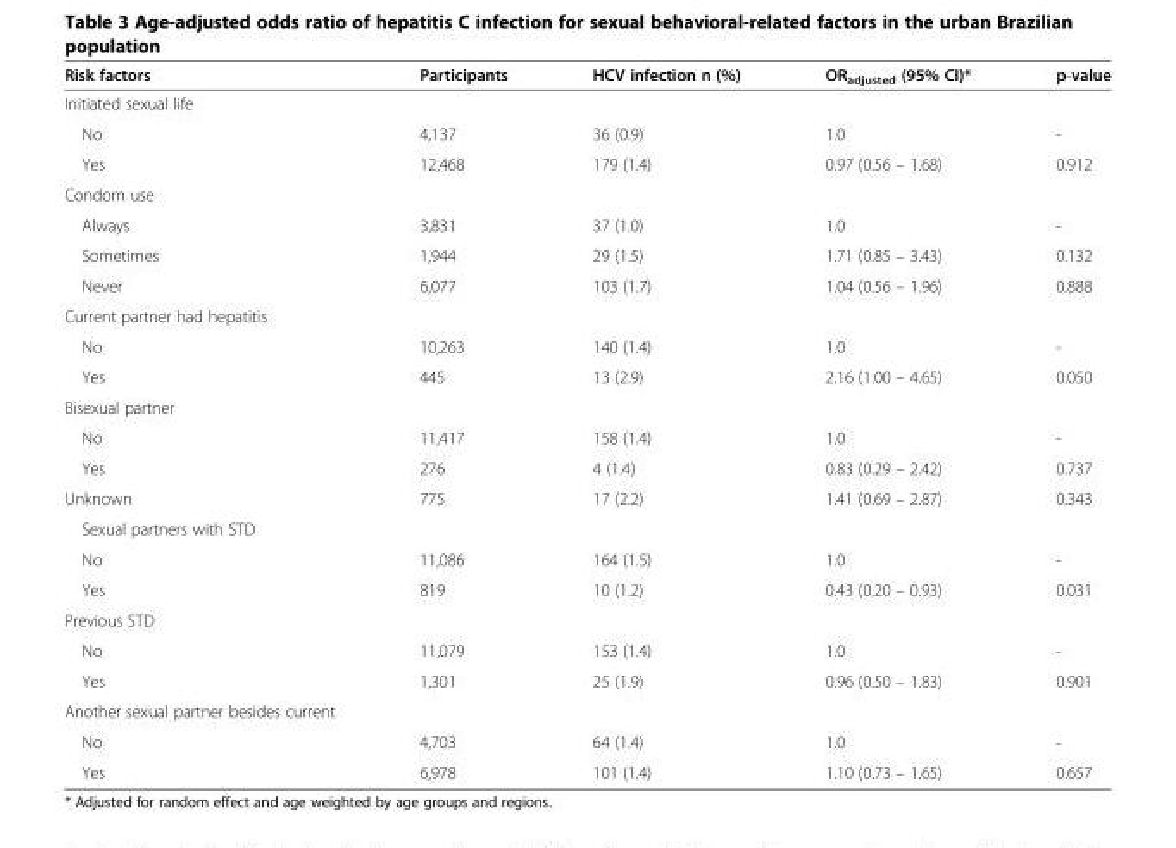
<table><thead><tr><td>Risk factors</td><td>Participants</td><td>HCV infection n (%)</td><td>OR<sub>adjusted</sub> (95% CI)*</td><td>p-value</td></tr></thead><tbody><tr><td colspan="5">Initiated sexual life</td></tr><tr><td>No</td><td>4,137</td><td>36 (0.9)</td><td>1.0</td><td>-</td></tr><tr><td>Yes</td><td>12,468</td><td>179 (1.4)</td><td>0.97 (0.56 – 1.68)</td><td>0.912</td></tr><tr><td colspan="5">Condom use</td></tr><tr><td>Always</td><td>3,831</td><td>37 (1.0)</td><td>1.0</td><td>-</td></tr><tr><td>Sometimes</td><td>1,944</td><td>29 (1.5)</td><td>1.71 (0.85 – 3.43)</td><td>0.132</td></tr><tr><td>Never</td><td>6,077</td><td>103 (1.7)</td><td>1.04 (0.56 – 1.96)</td><td>0.888</td></tr><tr><td colspan="5">Current partner had hepatitis</td></tr><tr><td>No</td><td>10,263</td><td>140 (1.4)</td><td>1.0</td><td>-</td></tr><tr><td>Yes</td><td>445</td><td>13 (2.9)</td><td>2.16 (1.00 – 4.65)</td><td>0.050</td></tr><tr><td colspan="5">Bisexual partner</td></tr><tr><td>No</td><td>11,417</td><td>158 (1.4)</td><td>1.0</td><td>-</td></tr><tr><td>Yes</td><td>276</td><td>4 (1.4)</td><td>0.83 (0.29 – 2.42)</td><td>0.737</td></tr><tr><td>Unknown</td><td>775</td><td>17 (2.2)</td><td>1.41 (0.69 – 2.87)</td><td>0.343</td></tr><tr><td colspan="5">Sexual partners with STD</td></tr><tr><td>No</td><td>11,086</td><td>164 (1.5)</td><td>1.0</td><td>-</td></tr><tr><td>Yes</td><td>819</td><td>10 (1.2)</td><td>0.43 (0.20 – 0.93)</td><td>0.031</td></tr><tr><td colspan="5">Previous STD</td></tr><tr><td>No</td><td>11,079</td><td>153 (1.4)</td><td>1.0</td><td>-</td></tr><tr><td>Yes</td><td>1,301</td><td>25 (1.9)</td><td>0.96 (0.50 – 1.83)</td><td>0.901</td></tr><tr><td colspan="5">Another sexual partner besides current</td></tr><tr><td>No</td><td>4,703</td><td>64 (1.4)</td><td>1.0</td><td>-</td></tr><tr><td>Yes</td><td>6,978</td><td>101 (1.4)</td><td>1.10 (0.73 – 1.65)</td><td>0.657</td></tr></tbody></table>